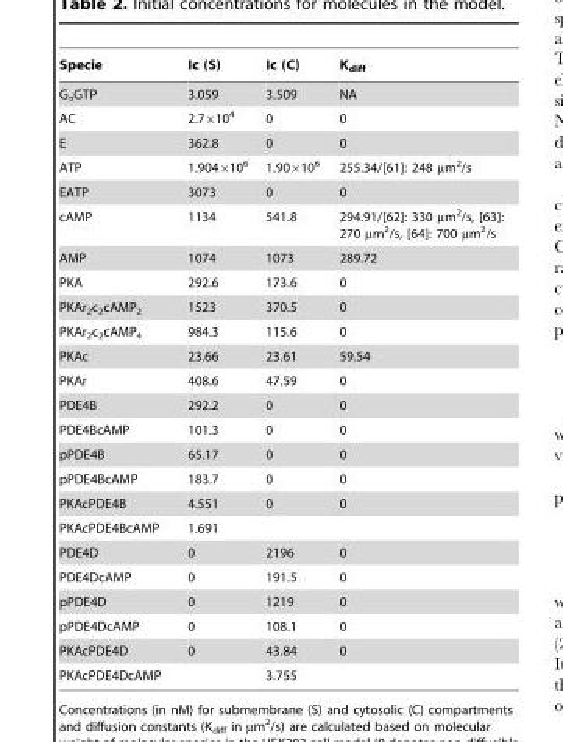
<table><thead><tr><td>Specie</td><td>Ic (S)</td><td>Ic (C)</td><td>K<sub>diff</sub></td></tr></thead><tbody><tr><td>G<sub>α</sub>GTP</td><td>3.059</td><td>3.509</td><td>NA</td></tr><tr><td>AC</td><td>2.7×10<sup>4</sup></td><td>0</td><td>0</td></tr><tr><td>E</td><td>362.8</td><td>0</td><td>0</td></tr><tr><td>ATP</td><td>1.904×10<sup>6</sup></td><td>1.90×10<sup>6</sup></td><td>255.34/[61]: 248 µm<sup>2</sup>/s</td></tr><tr><td>EATP</td><td>3073</td><td>0</td><td>0</td></tr><tr><td>cAMP</td><td>1134</td><td>541.8</td><td>294.91/[62]: 330 µm<sup>2</sup>/s, [63]: 270 µm<sup>2</sup>/s, [64]: 700 µm<sup>2</sup>/s</td></tr><tr><td>AMP</td><td>1074</td><td>1073</td><td>289.72</td></tr><tr><td>PKA</td><td>292.6</td><td>173.6</td><td>0</td></tr><tr><td>PKAr<sub>2</sub>c<sub>2</sub>cAMP<sub>2</sub></td><td>1523</td><td>370.5</td><td>0</td></tr><tr><td>PKAr<sub>2</sub>c<sub>2</sub>cAMP<sub>4</sub></td><td>984.3</td><td>115.6</td><td>0</td></tr><tr><td>PKAc</td><td>23.66</td><td>23.61</td><td>59.54</td></tr><tr><td>PKAr</td><td>408.6</td><td>47.59</td><td>0</td></tr><tr><td>PDE4B</td><td>292.2</td><td>0</td><td>0</td></tr><tr><td>PDE4BcAMP</td><td>101.3</td><td>0</td><td>0</td></tr><tr><td>pPDE4B</td><td>65.17</td><td>0</td><td>0</td></tr><tr><td>pPDE4BcAMP</td><td>183.7</td><td>0</td><td>0</td></tr><tr><td>PKAcPDE4B</td><td>4.551</td><td>0</td><td>0</td></tr><tr><td>PKAcPDE4BcAMP</td><td>1.691</td><td></td><td></td></tr><tr><td>PDE4D</td><td>0</td><td>2196</td><td>0</td></tr><tr><td>PDE4DcAMP</td><td>0</td><td>191.5</td><td>0</td></tr><tr><td>pPDE4D</td><td>0</td><td>1219</td><td>0</td></tr><tr><td>pPDE4DcAMP</td><td>0</td><td>108.1</td><td>0</td></tr><tr><td>PKAcPDE4D</td><td>0</td><td>43.84</td><td>0</td></tr><tr><td>PKAcPDE4DcAMP</td><td></td><td>3.755</td><td></td></tr></tbody></table>